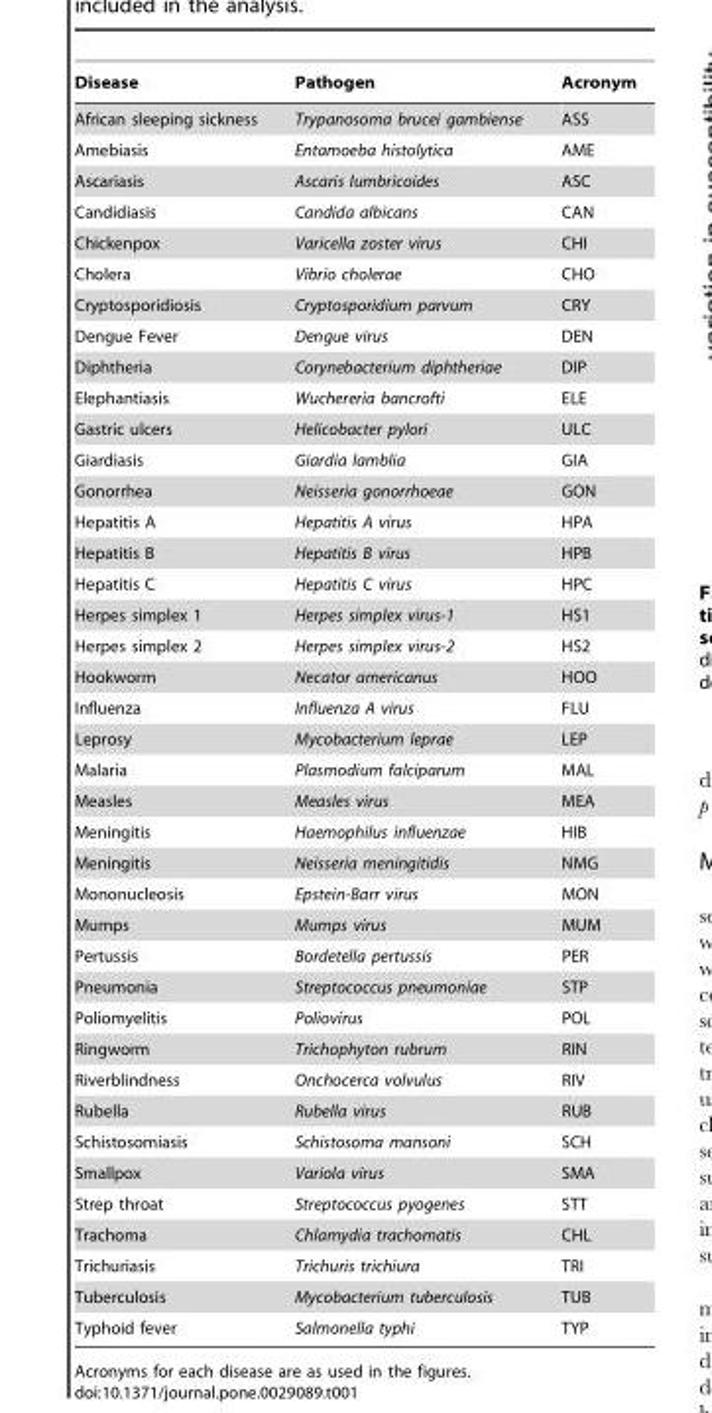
<table><thead><tr><td>Disease</td><td>Pathogen</td><td>Acronym</td></tr></thead><tbody><tr><td>African sleeping sickness</td><td>Trypanosoma brucei gambiense</td><td>ASS</td></tr><tr><td>Amebiasis</td><td>Entamoeba histolytica</td><td>AME</td></tr><tr><td>Ascariasis</td><td>Ascaris lumbricoides</td><td>ASC</td></tr><tr><td>Candidiasis</td><td>Candida albicans</td><td>CAN</td></tr><tr><td>Chickenpox</td><td>Varicella zoster virus</td><td>CHI</td></tr><tr><td>Cholera</td><td>Vibrio cholerae</td><td>CHO</td></tr><tr><td>Cryptosporidiosis</td><td>Cryptosporidium parvum</td><td>CRY</td></tr><tr><td>Dengue Fever</td><td>Dengue virus</td><td>DEN</td></tr><tr><td>Diphtheria</td><td>Corynebacterium diphtheriae</td><td>DIP</td></tr><tr><td>Elephantiasis</td><td>Wuchereria bancrofti</td><td>ELE</td></tr><tr><td>Gastric ulcers</td><td>Helicobacter pylori</td><td>ULC</td></tr><tr><td>Giardiasis</td><td>Giardia lamblia</td><td>GIA</td></tr><tr><td>Gonorrhea</td><td>Neisseria gonorrhoeae</td><td>GON</td></tr><tr><td>Hepatitis A</td><td>Hepatitis A virus</td><td>HPA</td></tr><tr><td>Hepatitis B</td><td>Hepatitis B virus</td><td>HPB</td></tr><tr><td>Hepatitis C</td><td>Hepatitis C virus</td><td>HPC</td></tr><tr><td>Herpes simplex 1</td><td>Herpes simplex virus-1</td><td>HS1</td></tr><tr><td>Herpes simplex 2</td><td>Herpes simplex virus-2</td><td>HS2</td></tr><tr><td>Hookworm</td><td>Necator americanus</td><td>HOO</td></tr><tr><td>Influenza</td><td>Influenza A virus</td><td>FLU</td></tr><tr><td>Leprosy</td><td>Mycobacterium leprae</td><td>LEP</td></tr><tr><td>Malaria</td><td>Plasmodium falciparum</td><td>MAL</td></tr><tr><td>Measles</td><td>Measles virus</td><td>MEA</td></tr><tr><td>Meningitis</td><td>Haemophilus influenzae</td><td>HIB</td></tr><tr><td>Meningitis</td><td>Neisseria meningitidis</td><td>NMG</td></tr><tr><td>Mononucleosis</td><td>Epstein-Barr virus</td><td>MON</td></tr><tr><td>Mumps</td><td>Mumps virus</td><td>MUM</td></tr><tr><td>Pertussis</td><td>Bordetella pertussis</td><td>PER</td></tr><tr><td>Pneumonia</td><td>Streptococcus pneumoniae</td><td>STP</td></tr><tr><td>Poliomyelitis</td><td>Poliovirus</td><td>POL</td></tr><tr><td>Ringworm</td><td>Trichophyton rubrum</td><td>RIN</td></tr><tr><td>Riverblindness</td><td>Onchocerca volvulus</td><td>RIV</td></tr><tr><td>Rubella</td><td>Rubella virus</td><td>RUB</td></tr><tr><td>Schistosomiasis</td><td>Schistosoma mansoni</td><td>SCH</td></tr><tr><td>Smallpox</td><td>Variola virus</td><td>SMA</td></tr><tr><td>Strep throat</td><td>Streptococcus pyogenes</td><td>STT</td></tr><tr><td>Trachoma</td><td>Chlamydia trachomatis</td><td>CHL</td></tr><tr><td>Trichuriasis</td><td>Trichuris trichiura</td><td>TRI</td></tr><tr><td>Tuberculosis</td><td>Mycobacterium tuberculosis</td><td>TUB</td></tr><tr><td>Typhoid fever</td><td>Salmonella typhi</td><td>TYP</td></tr></tbody></table>